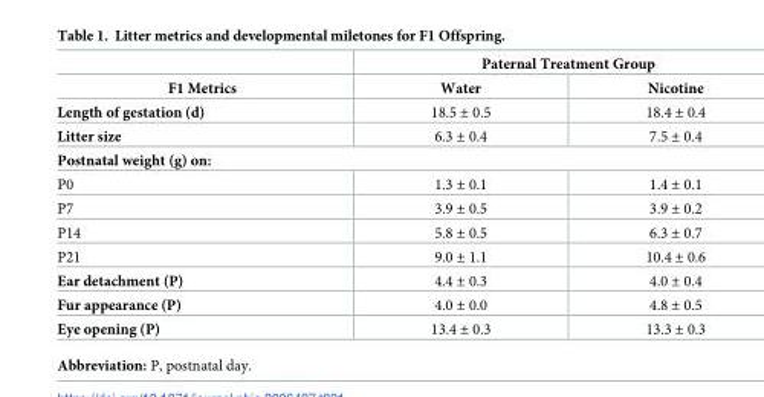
<table><thead><tr><td rowspan="2">F1 Metrics</td><td colspan="2">Paternal Treatment Group</td></tr><tr><td>Water</td><td>Nicotine</td></tr></thead><tbody><tr><td>Length of gestation (d)</td><td>18.5 ± 0.5</td><td>18.4 ± 0.4</td></tr><tr><td>Litter size</td><td>6.3 ± 0.4</td><td>7.5 ± 0.4</td></tr><tr><td colspan="3">Postnatal weight (g) on:</td></tr><tr><td>P0</td><td>1.3 ± 0.1</td><td>1.4 ± 0.1</td></tr><tr><td>P7</td><td>3.9 ± 0.5</td><td>3.9 ± 0.2</td></tr><tr><td>P14</td><td>5.8 ± 0.5</td><td>6.3 ± 0.7</td></tr><tr><td>P21</td><td>9.0 ± 1.1</td><td>10.4 ± 0.6</td></tr><tr><td>Ear detachment (P)</td><td>4.4 ± 0.3</td><td>4.0 ± 0.4</td></tr><tr><td>Fur appearance (P)</td><td>4.0 ± 0.0</td><td>4.8 ± 0.5</td></tr><tr><td>Eye opening (P)</td><td>13.4 ± 0.3</td><td>13.3 ± 0.3</td></tr></tbody></table>